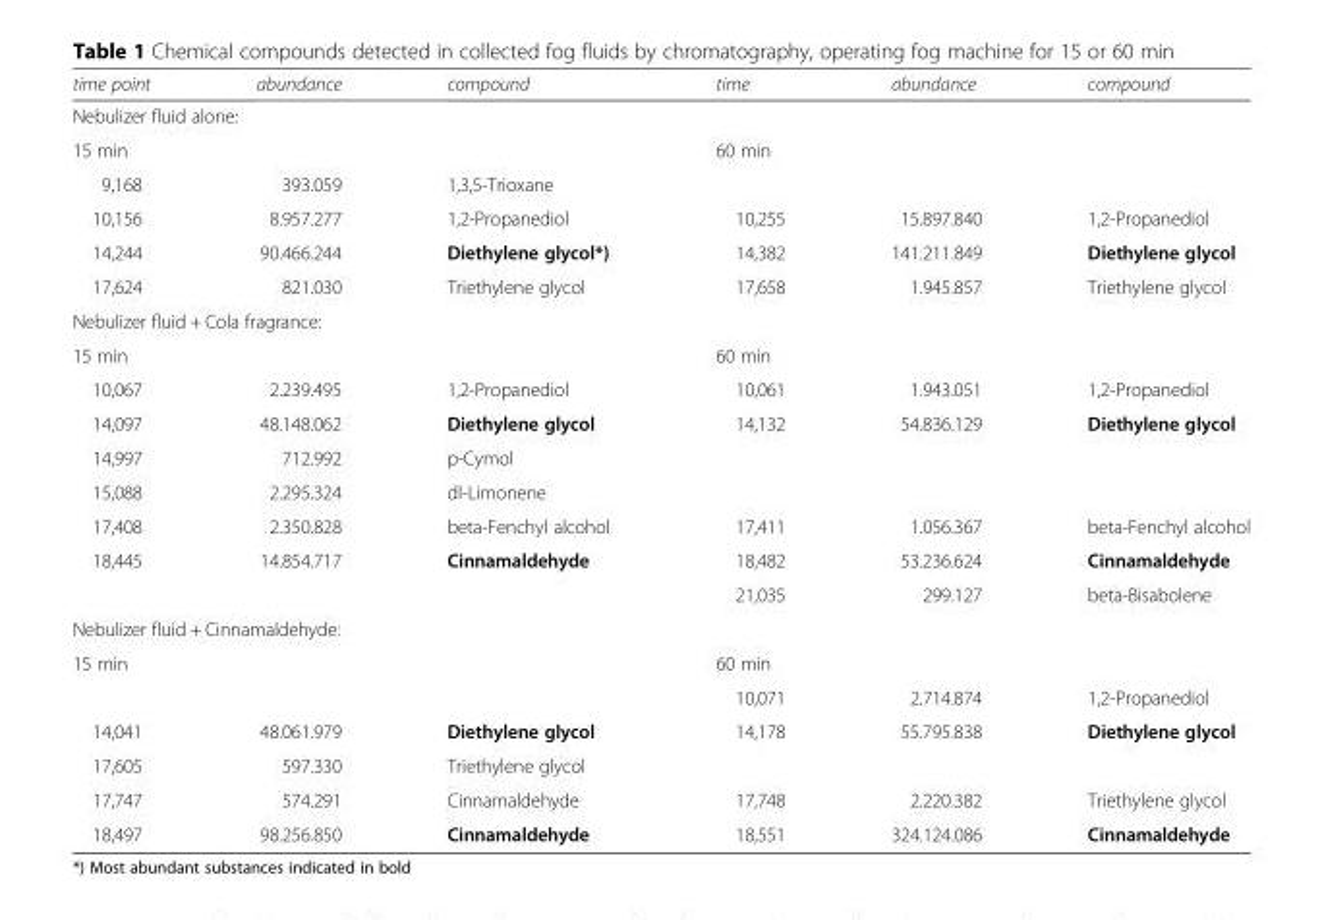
<table><thead><tr><td>time point</td><td>abundance</td><td>compound</td><td>time</td><td>abundance</td><td>compound</td></tr></thead><tbody><tr><td colspan="6">Nebulizer fluid alone:</td></tr><tr><td>15 min</td><td></td><td></td><td>60 min</td><td></td><td></td></tr><tr><td>9,168</td><td>393.059</td><td>1,3,5-Trioxane</td><td></td><td></td><td></td></tr><tr><td>10,156</td><td>8.957.277</td><td>1,2-Propanediol</td><td>10,255</td><td>15.897.840</td><td>1,2-Propanediol</td></tr><tr><td>14,244</td><td>90.466.244</td><td>Diethylene glycol*)</td><td>14,382</td><td>141.211.849</td><td>Diethylene glycol</td></tr><tr><td>17,624</td><td>821.030</td><td>Triethylene glycol</td><td>17,658</td><td>1.945.857</td><td>Triethylene glycol</td></tr><tr><td colspan="6">Nebulizer fluid + Cola fragrance:</td></tr><tr><td>15 min</td><td></td><td></td><td>60 min</td><td></td><td></td></tr><tr><td>10,067</td><td>2.239.495</td><td>1,2-Propanediol</td><td>10,061</td><td>1.943.051</td><td>1,2-Propanediol</td></tr><tr><td>14,097</td><td>48.148.062</td><td>Diethylene glycol</td><td>14,132</td><td>54.836.129</td><td>Diethylene glycol</td></tr><tr><td>14,997</td><td>712.992</td><td>p-Cymol</td><td></td><td></td><td></td></tr><tr><td>15,088</td><td>2.295.324</td><td>dl-Limonene</td><td></td><td></td><td></td></tr><tr><td>17,408</td><td>2.350.828</td><td>beta-Fenchyl alcohol</td><td>17,411</td><td>1.056.367</td><td>beta-Fenchyl alcohol</td></tr><tr><td rowspan="2">18,445</td><td>14.854.717</td><td>Cinnamaldehyde</td><td>18,482</td><td>53.236.624</td><td>Cinnamaldehyde</td></tr><tr><td></td><td></td><td>21,035</td><td>299.127</td><td>beta-Bisabolene</td></tr><tr><td colspan="6">Nebulizer fluid + Cinnamaldehyde:</td></tr><tr><td rowspan="2">15 min</td><td></td><td></td><td>60 min</td><td></td><td></td></tr><tr><td></td><td></td><td>10,071</td><td>2.714.874</td><td>1,2-Propanediol</td></tr><tr><td>14,041</td><td>48.061.979</td><td>Diethylene glycol</td><td>14,178</td><td>55.795.838</td><td>Diethylene glycol</td></tr><tr><td>17,605</td><td>597.330</td><td>Triethylene glycol</td><td></td><td></td><td></td></tr><tr><td>17,747</td><td>574.291</td><td>Cinnamaldehyde</td><td>17,748</td><td>2.220.382</td><td>Triethylene glycol</td></tr><tr><td>18,497</td><td>98.256.850</td><td>Cinnamaldehyde</td><td>18,551</td><td>324.124.086</td><td>Cinnamaldehyde</td></tr></tbody></table>